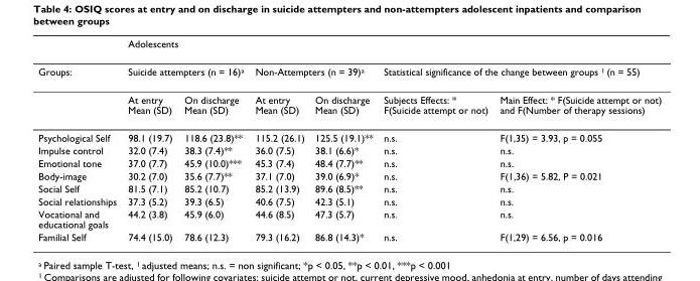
<table><thead><tr><td rowspan="3">Groups:</td><td colspan="6">Adolescents</td></tr><tr><td colspan="2">Suicide attempters (n = 16)<sup>a</sup></td><td colspan="2">Non-Attempters (n = 39)<sup>a</sup></td><td colspan="2">Statistical significance of the change between groups <sup>1</sup> (n = 55)</td></tr><tr><td>At entry Mean (SD)</td><td>On discharge Mean (SD)</td><td>At entry Mean (SD)</td><td>On discharge Mean (SD)</td><td>Subjects Effects: * F(Suicide attempt or not)</td><td>Main Effect: * F(Suicide attempt or not) and F(Number of therapy sessions)</td></tr></thead><tbody><tr><td>Psychological Self</td><td>98.1 (19.7)</td><td>118.6 (23.8)**</td><td>115.2 (26.1)</td><td>125.5 (19.1)**</td><td>n.s.</td><td>F(1,35) = 3.93, p = 0.055</td></tr><tr><td>Impulse control</td><td>32.0 (7.4)</td><td>38.3 (7.4)**</td><td>36.0 (7.5)</td><td>38.1 (6.6)*</td><td>n.s.</td><td>n.s.</td></tr><tr><td>Emotional tone</td><td>37.0 (7.7)</td><td>45.9 (10.0)***</td><td>45.3 (7.4)</td><td>48.4 (7.7)**</td><td>n.s.</td><td>n.s.</td></tr><tr><td>Body-image</td><td>30.2 (7.0)</td><td>35.6 (7.7)**</td><td>37.1 (7.0)</td><td>39.0 (6.9)*</td><td>n.s.</td><td>F(1,36) = 5.82, P = 0.021</td></tr><tr><td>Social Self</td><td>81.5 (7.1)</td><td>85.2 (10.7)</td><td>85.2 (13.9)</td><td>89.6 (8.5)**</td><td>n.s.</td><td>n.s.</td></tr><tr><td>Social relationships</td><td>37.3 (5.2)</td><td>39.3 (6.5)</td><td>40.6 (7.5)</td><td>42.3 (5.1)</td><td>n.s.</td><td>n.s.</td></tr><tr><td>Vocational and educational goals</td><td>44.2 (3.8)</td><td>45.9 (6.0)</td><td>44.6 (8.5)</td><td>47.3 (5.7)</td><td>n.s.</td><td>n.s.</td></tr><tr><td>Familial Self</td><td>74.4 (15.0)</td><td>78.6 (12.3)</td><td>79.3 (16.2)</td><td>86.8 (14.3)*</td><td>n.s.</td><td>F(1,29) = 6.56, p = 0.016</td></tr></tbody></table>